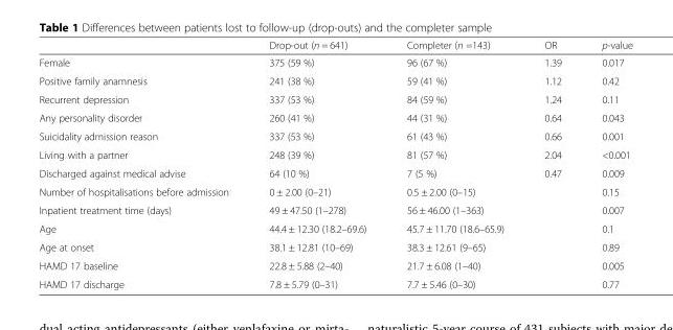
<table><thead><tr><td></td><td>Drop-out (n = 641)</td><td>Completer (n =143)</td><td>OR</td><td>p-value</td></tr></thead><tbody><tr><td>Female</td><td>375 (59 %)</td><td>96 (67 %)</td><td>1.39</td><td>0.017</td></tr><tr><td>Positive family anamnesis</td><td>241 (38 %)</td><td>59 (41 %)</td><td>1.12</td><td>0.42</td></tr><tr><td>Recurrent depression</td><td>337 (53 %)</td><td>84 (59 %)</td><td>1.24</td><td>0.11</td></tr><tr><td>Any personality disorder</td><td>260 (41 %)</td><td>44 (31 %)</td><td>0.64</td><td>0.043</td></tr><tr><td>Suicidality admission reason</td><td>337 (53 %)</td><td>61 (43 %)</td><td>0.66</td><td>0.001</td></tr><tr><td>Living with a partner</td><td>248 (39 %)</td><td>81 (57 %)</td><td>2.04</td><td>&lt;0.001</td></tr><tr><td>Discharged against medical advise</td><td>64 (10 %)</td><td>7 (5 %)</td><td>0.47</td><td>0.009</td></tr><tr><td>Number of hospitalisations before admission</td><td>0 ± 2.00 (0–21)</td><td>0.5 ± 2.00 (0–15)</td><td></td><td>0.15</td></tr><tr><td>Inpatient treatment time (days)</td><td>49 ± 47.50 (1–278)</td><td>56 ± 46.00 (1–363)</td><td></td><td>0.007</td></tr><tr><td>Age</td><td>44.4 ± 12.30 (18.2–69.6)</td><td>45.7 ± 11.70 (18.6–65.9)</td><td></td><td>0.1</td></tr><tr><td>Age at onset</td><td>38.1 ± 12.81 (10–69)</td><td>38.3 ± 12.61 (9–65)</td><td></td><td>0.89</td></tr><tr><td>HAMD 17 baseline</td><td>22.8 ± 5.88 (2–40)</td><td>21.7 ± 6.08 (1–40)</td><td></td><td>0.005</td></tr><tr><td>HAMD 17 discharge</td><td>7.8 ± 5.79 (0–31)</td><td>7.7 ± 5.46 (0–30)</td><td></td><td>0.77</td></tr></tbody></table>